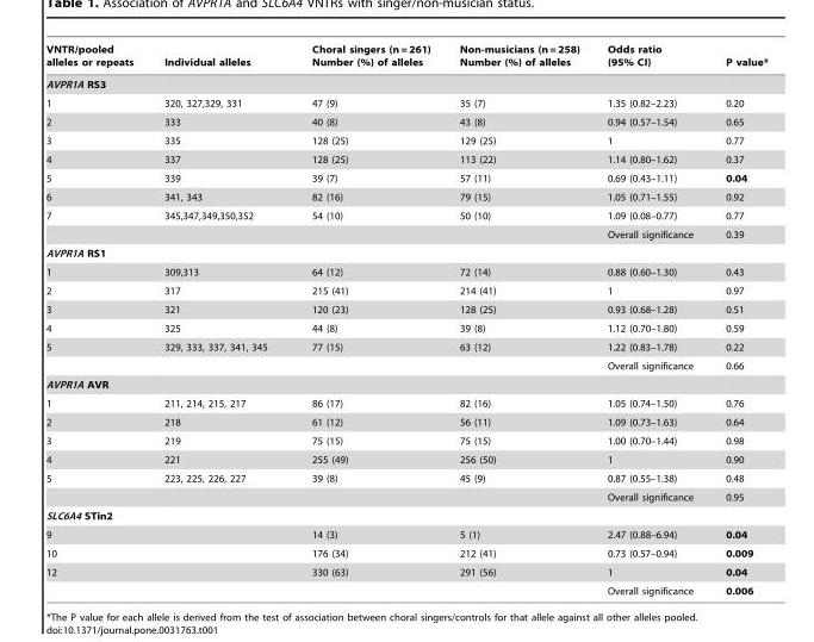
<table><thead><tr><td>VNTR/pooled alleles or repeats</td><td>Individual alleles</td><td>Choral singers (n = 261) Number (%) of alleles</td><td>Non-musicians (n = 258) Number (%) of alleles</td><td>Odds ratio (95% CI)</td><td>P value*</td></tr></thead><tbody><tr><td colspan="6">AVPR1A RS3</td></tr><tr><td>1</td><td>320, 327,329, 331</td><td>47 (9)</td><td>35 (7)</td><td>1.35 (0.82–2.23)</td><td>0.20</td></tr><tr><td>2</td><td>333</td><td>40 (8)</td><td>43 (8)</td><td>0.94 (0.57–1.54)</td><td>0.65</td></tr><tr><td>3</td><td>335</td><td>128 (25)</td><td>129 (25)</td><td>1</td><td>0.77</td></tr><tr><td>4</td><td>337</td><td>128 (25)</td><td>113 (22)</td><td>1.14 (0.80–1.62)</td><td>0.37</td></tr><tr><td>5</td><td>339</td><td>39 (7)</td><td>57 (11)</td><td>0.69 (0.43–1.11)</td><td>0.04</td></tr><tr><td>6</td><td>341, 343</td><td>82 (16)</td><td>79 (15)</td><td>1.05 (0.71–1.55)</td><td>0.92</td></tr><tr><td rowspan="2">7</td><td>345,347,349,350,352</td><td>54 (10)</td><td>50 (10)</td><td>1.09 (0.08–0.77)</td><td>0.77</td></tr><tr><td></td><td></td><td></td><td>Overall significance</td><td>0.39</td></tr><tr><td colspan="6">AVPR1A RS1</td></tr><tr><td>1</td><td>309,313</td><td>64 (12)</td><td>72 (14)</td><td>0.88 (0.60–1.30)</td><td>0.43</td></tr><tr><td>2</td><td>317</td><td>215 (41)</td><td>214 (41)</td><td>1</td><td>0.97</td></tr><tr><td>3</td><td>321</td><td>120 (23)</td><td>128 (25)</td><td>0.93 (0.68–1.28)</td><td>0.51</td></tr><tr><td>4</td><td>325</td><td>44 (8)</td><td>39 (8)</td><td>1.12 (0.70–1.80)</td><td>0.59</td></tr><tr><td rowspan="2">5</td><td>329, 333, 337, 341, 345</td><td>77 (15)</td><td>63 (12)</td><td>1.22 (0.83–1.78)</td><td>0.22</td></tr><tr><td></td><td></td><td></td><td>Overall significance</td><td>0.66</td></tr><tr><td colspan="6">AVPR1A AVR</td></tr><tr><td>1</td><td>211, 214, 215, 217</td><td>86 (17)</td><td>82 (16)</td><td>1.05 (0.74–1.50)</td><td>0.76</td></tr><tr><td>2</td><td>218</td><td>61 (12)</td><td>56 (11)</td><td>1.09 (0.73–1.63)</td><td>0.64</td></tr><tr><td>3</td><td>219</td><td>75 (15)</td><td>75 (15)</td><td>1.00 (0.70–1.44)</td><td>0.98</td></tr><tr><td>4</td><td>221</td><td>255 (49)</td><td>256 (50)</td><td>1</td><td>0.90</td></tr><tr><td rowspan="2">5</td><td>223, 225, 226, 227</td><td>39 (8)</td><td>45 (9)</td><td>0.87 (0.55–1.38)</td><td>0.48</td></tr><tr><td></td><td></td><td></td><td>Overall significance</td><td>0.95</td></tr><tr><td colspan="6">SLC6A4 STin2</td></tr><tr><td>9</td><td></td><td>14 (3)</td><td>5 (1)</td><td>2.47 (0.88–6.94)</td><td>0.04</td></tr><tr><td>10</td><td></td><td>176 (34)</td><td>212 (41)</td><td>0.73 (0.57–0.94)</td><td>0.009</td></tr><tr><td rowspan="2">12</td><td></td><td>330 (63)</td><td>291 (56)</td><td>1</td><td>0.04</td></tr><tr><td></td><td></td><td></td><td>Overall significance</td><td>0.006</td></tr></tbody></table>